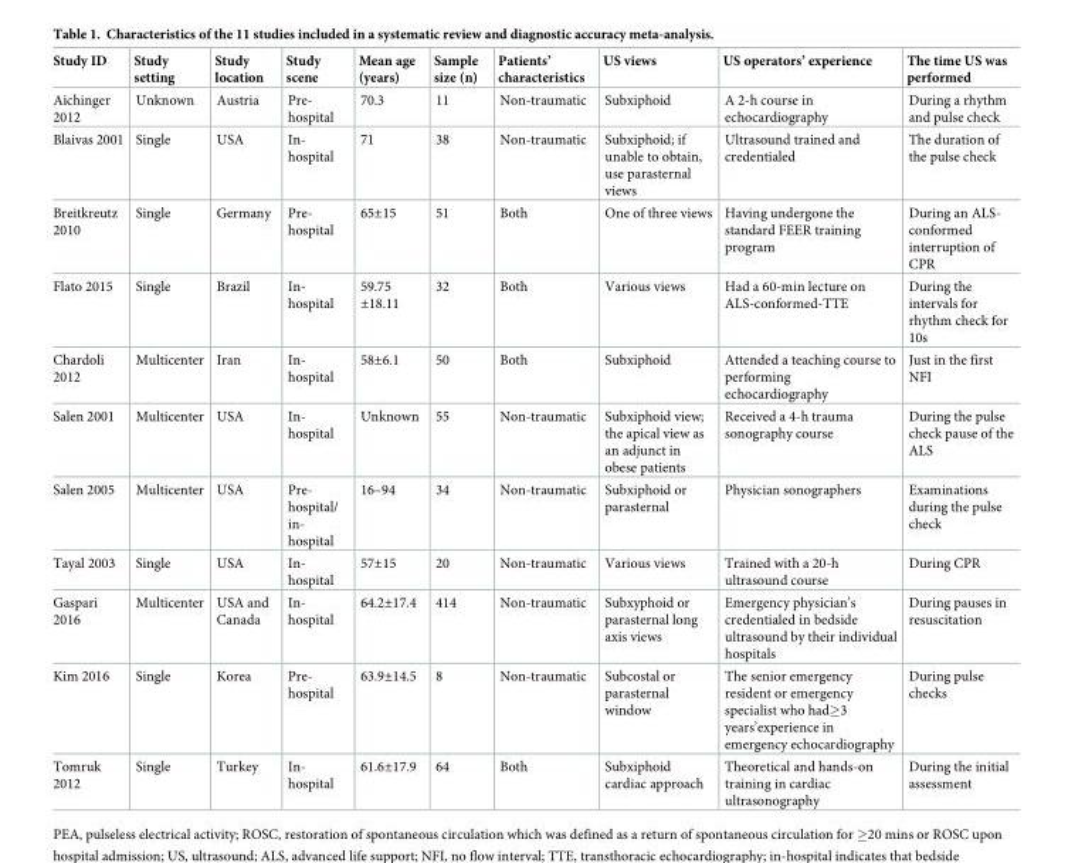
<table><thead><tr><td>Study ID</td><td>Study setting</td><td>Study location</td><td>Study scene</td><td>Mean age (years)</td><td>Sample size (n)</td><td>Patients’ characteristics</td><td>US views</td><td>US operators’ experience</td><td>The time US was performed</td></tr></thead><tbody><tr><td>Aichinger 2012</td><td>Unknown</td><td>Austria</td><td>Pre- hospital</td><td>70.3</td><td>11</td><td>Non-traumatic</td><td>Subxiphoid</td><td>A 2-h course in echocardiography</td><td>During a rhythm and pulse check</td></tr><tr><td>Blaivas 2001</td><td>Single</td><td>USA</td><td>In- hospital</td><td>71</td><td>38</td><td>Non-traumatic</td><td>Subxiphoid; if unable to obtain, use parasternal views</td><td>Ultrasound trained and credentialed</td><td>The duration of the pulse check</td></tr><tr><td>Breitkreutz 2010</td><td>Single</td><td>Germany</td><td>Pre- hospital</td><td>65±15</td><td>51</td><td>Both</td><td>One of three views</td><td>Having undergone the standard FEER training program</td><td>During an ALS- conformed interruption of CPR</td></tr><tr><td>Flato 2015</td><td>Single</td><td>Brazil</td><td>In- hospital</td><td>59.75 ±18.11</td><td>32</td><td>Both</td><td>Various views</td><td>Had a 60-min lecture on ALS-conformed-TTE</td><td>During the intervals for rhythm check for 10s</td></tr><tr><td>Chardoli 2012</td><td>Multicenter</td><td>Iran</td><td>In- hospital</td><td>58±6.1</td><td>50</td><td>Both</td><td>Subxiphoid</td><td>Attended a teaching course to performing echocardiography</td><td>Just in the first NFI</td></tr><tr><td>Salen 2001</td><td>Multicenter</td><td>USA</td><td>In- hospital</td><td>Unknown</td><td>55</td><td>Non-traumatic</td><td>Subxiphoid view; the apical view as an adjunct in obese patients</td><td>Received a 4-h trauma sonography course</td><td>During the pulse check pause of the ALS</td></tr><tr><td>Salen 2005</td><td>Multicenter</td><td>USA</td><td>Pre- hospital/ in- hospital</td><td>16–94</td><td>34</td><td>Non-traumatic</td><td>Subxiphoid or parasternal</td><td>Physician sonographers</td><td>Examinations during the pulse check</td></tr><tr><td>Tayal 2003</td><td>Single</td><td>USA</td><td>In- hospital</td><td>57±15</td><td>20</td><td>Non-traumatic</td><td>Various views</td><td>Trained with a 20-h ultrasound course</td><td>During CPR</td></tr><tr><td>Gaspari 2016</td><td>Multicenter</td><td>USA and Canada</td><td>In- hospital</td><td>64.2±17.4</td><td>414</td><td>Non-traumatic</td><td>Subxyphoid or parasternal long axis views</td><td>Emergency physician’s credentialed in bedside ultrasound by their individual hospitals</td><td>During pauses in resuscitation</td></tr><tr><td>Kim 2016</td><td>Single</td><td>Korea</td><td>Pre- hospital</td><td>63.9±14.5</td><td>8</td><td>Non-traumatic</td><td>Subcostal or parasternal window</td><td>The senior emergency resident or emergency specialist who had≥3 years’experience in emergency echocardiography</td><td>During pulse checks</td></tr><tr><td>Tomruk 2012</td><td>Single</td><td>Turkey</td><td>In- hospital</td><td>61.6±17.9</td><td>64</td><td>Both</td><td>Subxiphoid cardiac approach</td><td>Theoretical and hands-on training in cardiac ultrasonography</td><td>During the initial assessment</td></tr></tbody></table>